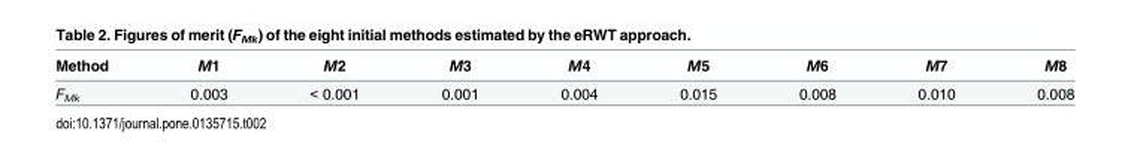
<table><thead><tr><td>Method</td><td>M1</td><td>M2</td><td>M3</td><td>M4</td><td>M5</td><td>M6</td><td>M7</td><td>M8</td></tr></thead><tbody><tr><td>F<sub>Mk</sub></td><td>0.003</td><td>&lt; 0.001</td><td>0.001</td><td>0.004</td><td>0.015</td><td>0.008</td><td>0.010</td><td>0.008</td></tr></tbody></table>